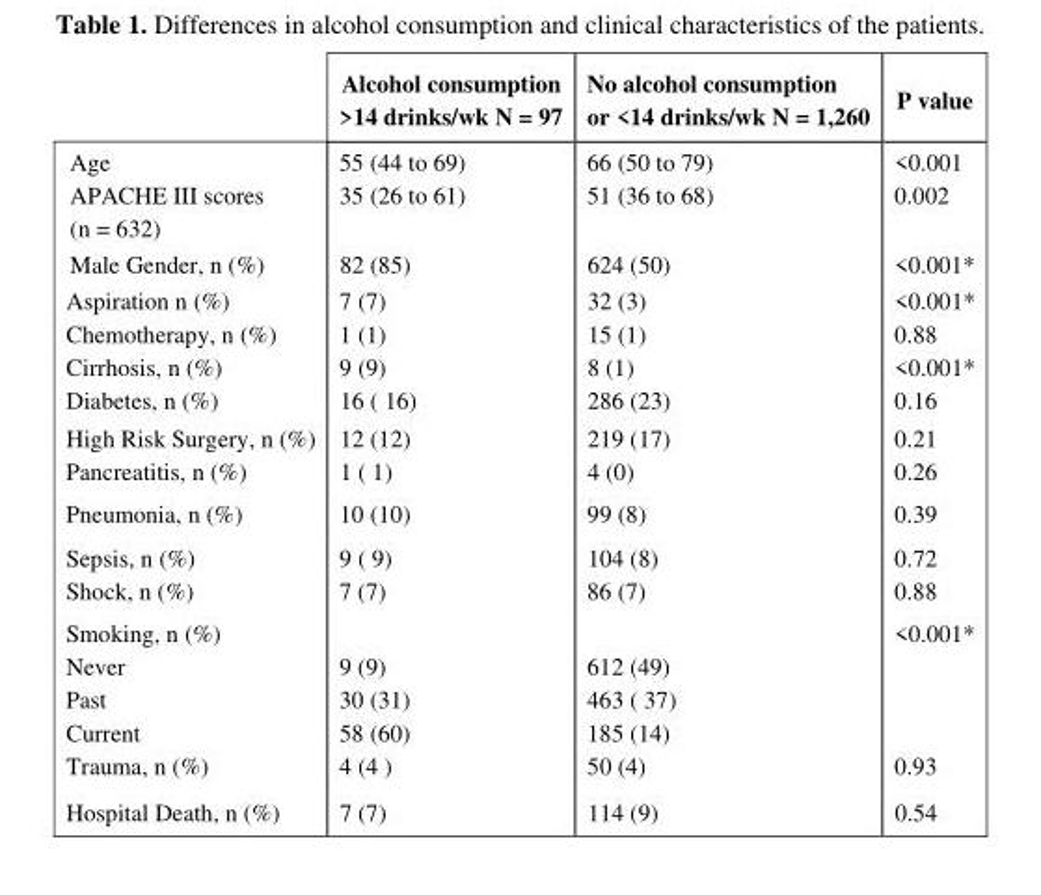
<table><thead><tr><td></td><td>Alcohol consumption &gt;14 drinks/wk N = 97</td><td>No alcohol consumption or &lt;14 drinks/wk N = 1,260</td><td>P value</td></tr></thead><tbody><tr><td>Age</td><td>55 (44 to 69)</td><td>66 (50 to 79)</td><td>&lt;0.001</td></tr><tr><td>APACHE III scores (n = 632)</td><td>35 (26 to 61)</td><td>51 (36 to 68)</td><td>0.002</td></tr><tr><td>Male Gender, n (%)</td><td>82 (85)</td><td>624 (50)</td><td>&lt;0.001*</td></tr><tr><td>Aspiration n (%)</td><td>7 (7)</td><td>32 (3)</td><td>&lt;0.001*</td></tr><tr><td>Chemotherapy, n (%)</td><td>1 (1)</td><td>15 (1)</td><td>0.88</td></tr><tr><td>Cirrhosis, n (%)</td><td>9 (9)</td><td>8 (1)</td><td>&lt;0.001*</td></tr><tr><td>Diabetes, n (%)</td><td>16 ( 16)</td><td>286 (23)</td><td>0.16</td></tr><tr><td>High Risk Surgery, n (%)</td><td>12 (12)</td><td>219 (17)</td><td>0.21</td></tr><tr><td>Pancreatitis, n (%)</td><td>1 ( 1)</td><td>4 (0)</td><td>0.26</td></tr><tr><td>Pneumonia, n (%)</td><td>10 (10)</td><td>99 (8)</td><td>0.39</td></tr><tr><td>Sepsis, n (%)</td><td>9 ( 9)</td><td>104 (8)</td><td>0.72</td></tr><tr><td>Shock, n (%)</td><td>7 (7)</td><td>86 (7)</td><td>0.88</td></tr><tr><td>Smoking, n (%)</td><td></td><td></td><td>&lt;0.001*</td></tr><tr><td>Never</td><td>9 (9)</td><td>612 (49)</td><td></td></tr><tr><td>Past</td><td>30 (31)</td><td>463 ( 37)</td><td></td></tr><tr><td>Current</td><td>58 (60)</td><td>185 (14)</td><td></td></tr><tr><td>Trauma, n (%)</td><td>4 (4 )</td><td>50 (4)</td><td>0.93</td></tr><tr><td>Hospital Death, n (%)</td><td>7 (7)</td><td>114 (9)</td><td>0.54</td></tr></tbody></table>